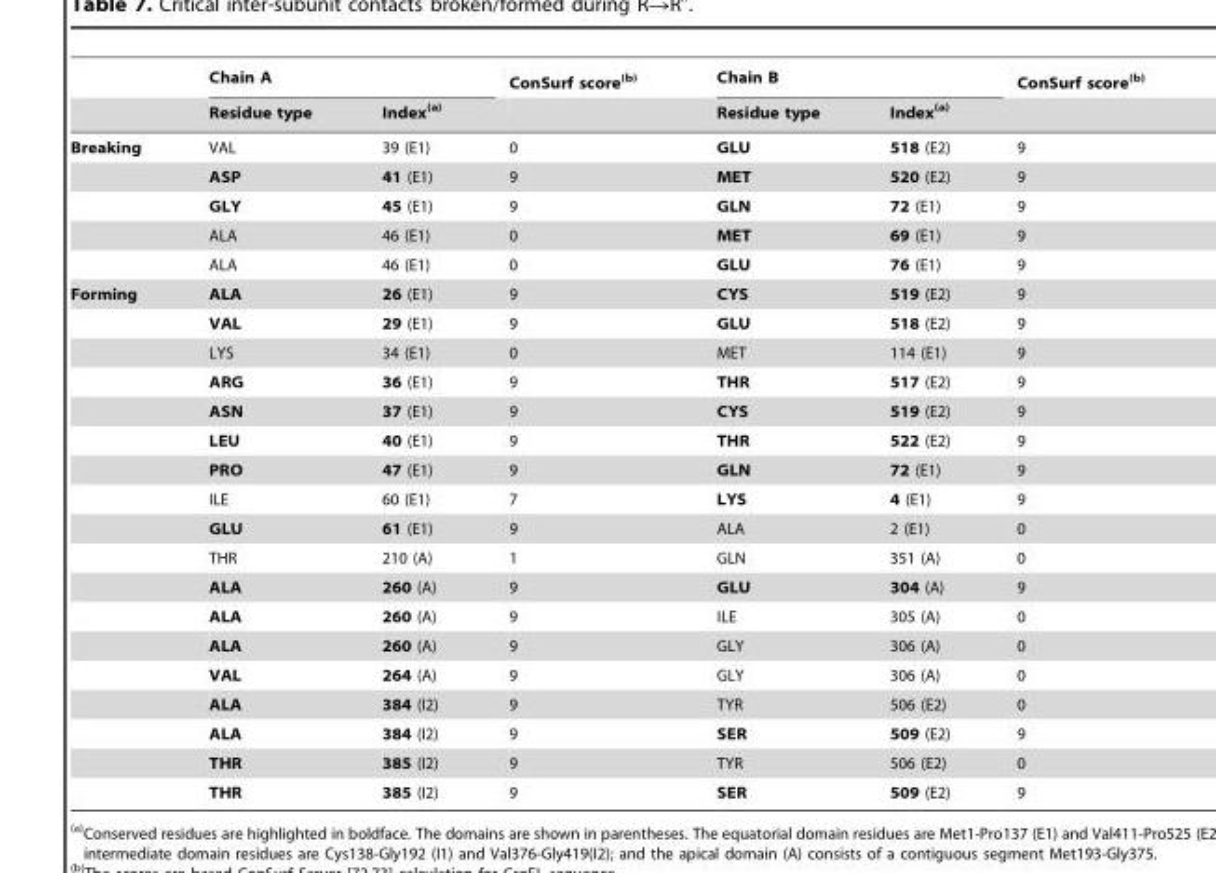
<table><thead><tr><td rowspan="2"></td><td colspan="2">Chain A</td><td rowspan="2">ConSurf score(b)</td><td colspan="2">Chain B</td><td rowspan="2">ConSurf score(b)</td></tr><tr><td>Residue type</td><td>Index(a)</td><td>Residue type</td><td>Index(a)</td></tr></thead><tbody><tr><td rowspan="5">Breaking</td><td>VAL</td><td>39 (E1)</td><td>0</td><td>GLU</td><td>518 (E2)</td><td>9</td></tr><tr><td>ASP</td><td>41 (E1)</td><td>9</td><td>MET</td><td>520 (E2)</td><td>9</td></tr><tr><td>GLY</td><td>45 (E1)</td><td>9</td><td>GLN</td><td>72 (E1)</td><td>9</td></tr><tr><td>ALA</td><td>46 (E1)</td><td>0</td><td>MET</td><td>69 (E1)</td><td>9</td></tr><tr><td>ALA</td><td>46 (E1)</td><td>0</td><td>GLU</td><td>76 (E1)</td><td>9</td></tr><tr><td rowspan="18">Forming</td><td>ALA</td><td>26 (E1)</td><td>9</td><td>CYS</td><td>519 (E2)</td><td>9</td></tr><tr><td>VAL</td><td>29 (E1)</td><td>9</td><td>GLU</td><td>518 (E2)</td><td>9</td></tr><tr><td>LYS</td><td>34 (E1)</td><td>0</td><td>MET</td><td>114 (E1)</td><td>9</td></tr><tr><td>ARG</td><td>36 (E1)</td><td>9</td><td>THR</td><td>517 (E2)</td><td>9</td></tr><tr><td>ASN</td><td>37 (E1)</td><td>9</td><td>CYS</td><td>519 (E2)</td><td>9</td></tr><tr><td>LEU</td><td>40 (E1)</td><td>9</td><td>THR</td><td>522 (E2)</td><td>9</td></tr><tr><td>PRO</td><td>47 (E1)</td><td>9</td><td>GLN</td><td>72 (E1)</td><td>9</td></tr><tr><td>ILE</td><td>60 (E1)</td><td>7</td><td>LYS</td><td>4 (E1)</td><td>9</td></tr><tr><td>GLU</td><td>61 (E1)</td><td>9</td><td>ALA</td><td>2 (E1)</td><td>0</td></tr><tr><td>THR</td><td>210 (A)</td><td>1</td><td>GLN</td><td>351 (A)</td><td>0</td></tr><tr><td>ALA</td><td>260 (A)</td><td>9</td><td>GLU</td><td>304 (A)</td><td>9</td></tr><tr><td>ALA</td><td>260 (A)</td><td>9</td><td>ILE</td><td>305 (A)</td><td>0</td></tr><tr><td>ALA</td><td>260 (A)</td><td>9</td><td>GLY</td><td>306 (A)</td><td>0</td></tr><tr><td>VAL</td><td>264 (A)</td><td>9</td><td>GLY</td><td>306 (A)</td><td>0</td></tr><tr><td>ALA</td><td>384 (I2)</td><td>9</td><td>TYR</td><td>506 (E2)</td><td>0</td></tr><tr><td>ALA</td><td>384 (I2)</td><td>9</td><td>SER</td><td>509 (E2)</td><td>9</td></tr><tr><td>THR</td><td>385 (I2)</td><td>9</td><td>TYR</td><td>506 (E2)</td><td>0</td></tr><tr><td>THR</td><td>385 (I2)</td><td>9</td><td>SER</td><td>509 (E2)</td><td>9</td></tr></tbody></table>